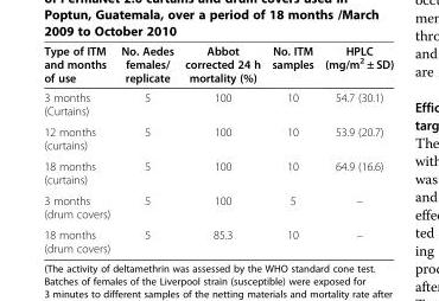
<table><thead><tr><td>Type of ITM and months of use</td><td>No. Aedes females/ replicate</td><td>Abbot corrected 24 h mortality (%)</td><td>No. ITM samples</td><td>HPLC (mg/m<sup>2</sup> ± SD)</td></tr></thead><tbody><tr><td>3 months (Curtains)</td><td>5</td><td>100</td><td>10</td><td>54.7 (30.1)</td></tr><tr><td>12 months (curtains)</td><td>5</td><td>100</td><td>10</td><td>53.9 (20.7)</td></tr><tr><td>18 months (curtains)</td><td>5</td><td>100</td><td>10</td><td>64.9 (16.6)</td></tr><tr><td>3 months (drum covers)</td><td>5</td><td>100</td><td>5</td><td>–</td></tr><tr><td>18 months (drum covers)</td><td>5</td><td>85.3</td><td>10</td><td>–</td></tr></tbody></table>